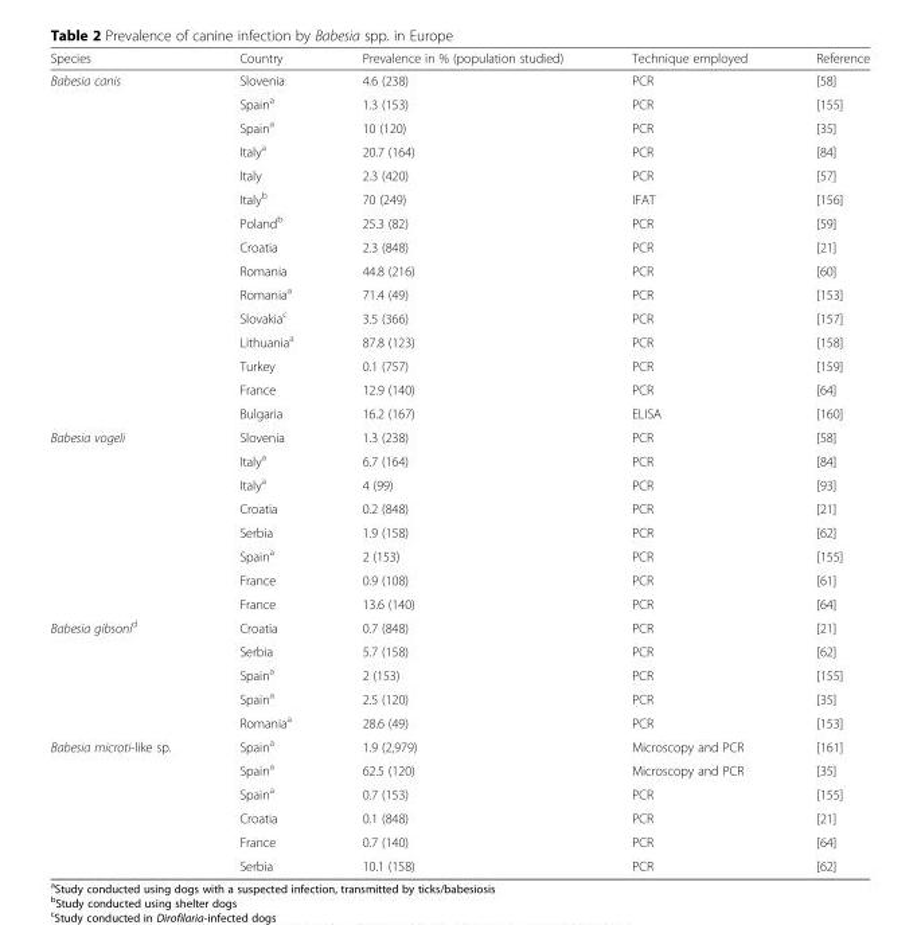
<table><thead><tr><td>Species</td><td>Country</td><td>Prevalence in % (population studied)</td><td>Technique employed</td><td>Reference</td></tr></thead><tbody><tr><td rowspan="15">Babesia canis</td><td>Slovenia</td><td>4.6 (238)</td><td>PCR</td><td>[58]</td></tr><tr><td>Spain<sup>a</sup></td><td>1.3 (153)</td><td>PCR</td><td>[155]</td></tr><tr><td>Spain<sup>a</sup></td><td>10 (120)</td><td>PCR</td><td>[35]</td></tr><tr><td>Italy<sup>a</sup></td><td>20.7 (164)</td><td>PCR</td><td>[84]</td></tr><tr><td>Italy</td><td>2.3 (420)</td><td>PCR</td><td>[57]</td></tr><tr><td>Italy<sup>b</sup></td><td>70 (249)</td><td>IFAT</td><td>[156]</td></tr><tr><td>Poland<sup>b</sup></td><td>25.3 (82)</td><td>PCR</td><td>[59]</td></tr><tr><td>Croatia</td><td>2.3 (848)</td><td>PCR</td><td>[21]</td></tr><tr><td>Romania</td><td>44.8 (216)</td><td>PCR</td><td>[60]</td></tr><tr><td>Romania<sup>a</sup></td><td>71.4 (49)</td><td>PCR</td><td>[153]</td></tr><tr><td>Slovakia<sup>c</sup></td><td>3.5 (366)</td><td>PCR</td><td>[157]</td></tr><tr><td>Lithuania<sup>a</sup></td><td>87.8 (123)</td><td>PCR</td><td>[158]</td></tr><tr><td>Turkey</td><td>0.1 (757)</td><td>PCR</td><td>[159]</td></tr><tr><td>France</td><td>12.9 (140)</td><td>PCR</td><td>[64]</td></tr><tr><td>Bulgaria</td><td>16.2 (167)</td><td>ELISA</td><td>[160]</td></tr><tr><td rowspan="8">Babesia vogeli</td><td>Slovenia</td><td>1.3 (238)</td><td>PCR</td><td>[58]</td></tr><tr><td>Italy<sup>a</sup></td><td>6.7 (164)</td><td>PCR</td><td>[84]</td></tr><tr><td>Italy<sup>a</sup></td><td>4 (99)</td><td>PCR</td><td>[93]</td></tr><tr><td>Croatia</td><td>0.2 (848)</td><td>PCR</td><td>[21]</td></tr><tr><td>Serbia</td><td>1.9 (158)</td><td>PCR</td><td>[62]</td></tr><tr><td>Spain<sup>a</sup></td><td>2 (153)</td><td>PCR</td><td>[155]</td></tr><tr><td>France</td><td>0.9 (108)</td><td>PCR</td><td>[61]</td></tr><tr><td>France</td><td>13.6 (140)</td><td>PCR</td><td>[64]</td></tr><tr><td rowspan="5">Babesia gibsoni<sup>d</sup></td><td>Croatia</td><td>0.7 (848)</td><td>PCR</td><td>[21]</td></tr><tr><td>Serbia</td><td>5.7 (158)</td><td>PCR</td><td>[62]</td></tr><tr><td>Spain<sup>a</sup></td><td>2 (153)</td><td>PCR</td><td>[155]</td></tr><tr><td>Spain<sup>a</sup></td><td>2.5 (120)</td><td>PCR</td><td>[35]</td></tr><tr><td>Romania<sup>a</sup></td><td>28.6 (49)</td><td>PCR</td><td>[153]</td></tr><tr><td rowspan="6">Babesia microti-like sp.</td><td>Spain<sup>a</sup></td><td>1.9 (2,979)</td><td>Microscopy and PCR</td><td>[161]</td></tr><tr><td>Spain<sup>a</sup></td><td>62.5 (120)</td><td>Microscopy and PCR</td><td>[35]</td></tr><tr><td>Spain<sup>a</sup></td><td>0.7 (153)</td><td>PCR</td><td>[155]</td></tr><tr><td>Croatia</td><td>0.1 (848)</td><td>PCR</td><td>[21]</td></tr><tr><td>France</td><td>0.7 (140)</td><td>PCR</td><td>[64]</td></tr><tr><td>Serbia</td><td>10.1 (158)</td><td>PCR</td><td>[62]</td></tr></tbody></table>